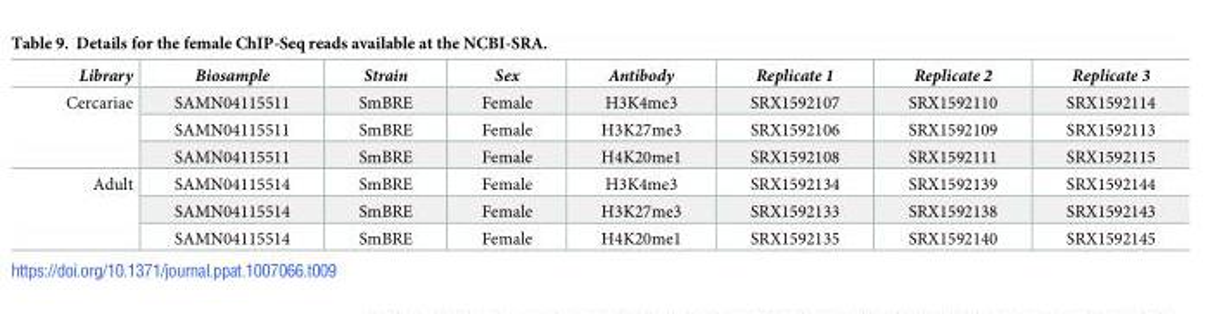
<table><thead><tr><td>Library</td><td>Biosample</td><td>Strain</td><td>Sex</td><td>Antibody</td><td>Replicate 1</td><td>Replicate 2</td><td>Replicate 3</td></tr></thead><tbody><tr><td rowspan="3">Cercariae</td><td>SAMN04115511</td><td>SmBRE</td><td>Female</td><td>H3K4me3</td><td>SRX1592107</td><td>SRX1592110</td><td>SRX1592114</td></tr><tr><td>SAMN04115511</td><td>SmBRE</td><td>Female</td><td>H3K27me3</td><td>SRX1592106</td><td>SRX1592109</td><td>SRX1592113</td></tr><tr><td>SAMN04115511</td><td>SmBRE</td><td>Female</td><td>H4K20me1</td><td>SRX1592108</td><td>SRX1592111</td><td>SRX1592115</td></tr><tr><td rowspan="3">Adult</td><td>SAMN04115514</td><td>SmBRE</td><td>Female</td><td>H3K4me3</td><td>SRX1592134</td><td>SRX1592139</td><td>SRX1592144</td></tr><tr><td>SAMN04115514</td><td>SmBRE</td><td>Female</td><td>H3K27me3</td><td>SRX1592133</td><td>SRX1592138</td><td>SRX1592143</td></tr><tr><td>SAMN04115514</td><td>SmBRE</td><td>Female</td><td>H4K20me1</td><td>SRX1592135</td><td>SRX1592140</td><td>SRX1592145</td></tr></tbody></table>